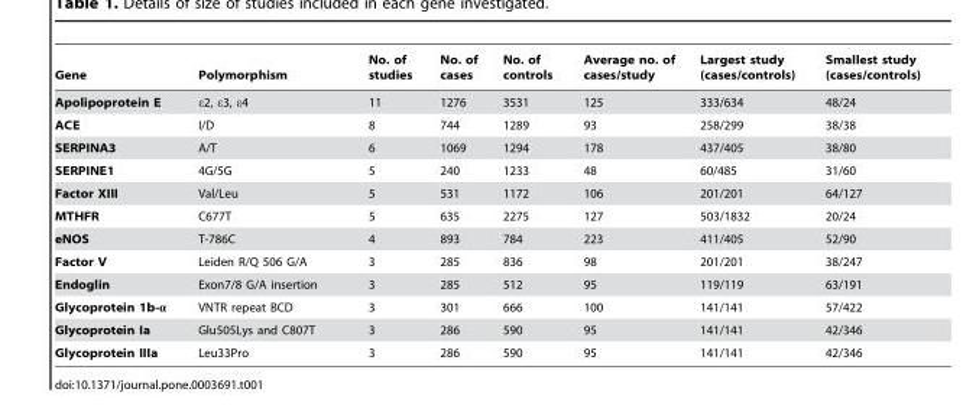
<table><thead><tr><td>Gene</td><td>Polymorphism</td><td>No. of studies</td><td>No. of cases</td><td>No. of controls</td><td>Average no. of cases/study</td><td>Largest study (cases/controls)</td><td>Smallest study (cases/controls)</td></tr></thead><tbody><tr><td>Apolipoprotein E</td><td>ε2, ε3, ε4</td><td>11</td><td>1276</td><td>3531</td><td>125</td><td>333/634</td><td>48/24</td></tr><tr><td>ACE</td><td>I/D</td><td>8</td><td>744</td><td>1289</td><td>93</td><td>258/299</td><td>38/38</td></tr><tr><td>SERPINA3</td><td>A/T</td><td>6</td><td>1069</td><td>1294</td><td>178</td><td>437/405</td><td>38/80</td></tr><tr><td>SERPINE1</td><td>4G/5G</td><td>5</td><td>240</td><td>1233</td><td>48</td><td>60/485</td><td>31/60</td></tr><tr><td>Factor XIII</td><td>Val/Leu</td><td>5</td><td>531</td><td>1172</td><td>106</td><td>201/201</td><td>64/127</td></tr><tr><td>MTHFR</td><td>C677T</td><td>5</td><td>635</td><td>2275</td><td>127</td><td>503/1832</td><td>20/24</td></tr><tr><td>eNOS</td><td>T-786C</td><td>4</td><td>893</td><td>784</td><td>223</td><td>411/405</td><td>52/90</td></tr><tr><td>Factor V</td><td>Leiden R/Q 506 G/A</td><td>3</td><td>285</td><td>836</td><td>98</td><td>201/201</td><td>38/247</td></tr><tr><td>Endoglin</td><td>Exon7/8 G/A insertion</td><td>3</td><td>285</td><td>512</td><td>95</td><td>119/119</td><td>63/191</td></tr><tr><td>Glycoprotein 1b-α</td><td>VNTR repeat BCD</td><td>3</td><td>301</td><td>666</td><td>100</td><td>141/141</td><td>57/422</td></tr><tr><td>Glycoprotein Ia</td><td>Glu505Lys and C807T</td><td>3</td><td>286</td><td>590</td><td>95</td><td>141/141</td><td>42/346</td></tr><tr><td>Glycoprotein IIIa</td><td>Leu33Pro</td><td>3</td><td>286</td><td>590</td><td>95</td><td>141/141</td><td>42/346</td></tr></tbody></table>